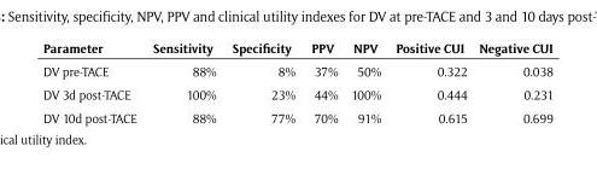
<table><thead><tr><td>Parameter</td><td>Sensitivity</td><td>Specificity</td><td>PPV</td><td>NPV</td><td>Positive CUI</td><td>Negative CUI</td></tr></thead><tbody><tr><td>DV pre-TACE</td><td>88%</td><td>8%</td><td>37%</td><td>50%</td><td>0.322</td><td>0.038</td></tr><tr><td>DV 3d post-TACE</td><td>100%</td><td>23%</td><td>44%</td><td>100%</td><td>0.444</td><td>0.231</td></tr><tr><td>DV 10d post-TACE</td><td>88%</td><td>77%</td><td>70%</td><td>91%</td><td>0.615</td><td>0.699</td></tr></tbody></table>